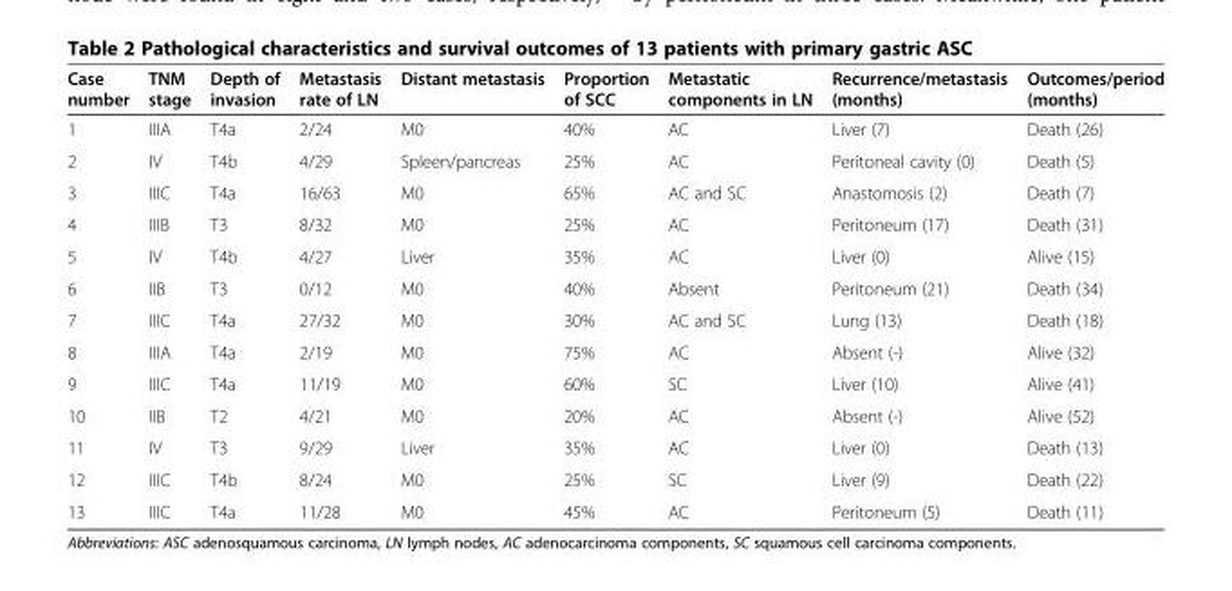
<table><thead><tr><td>Case number</td><td>TNM stage</td><td>Depth of invasion</td><td>Metastasis rate of LN</td><td>Distant metastasis</td><td>Proportion of SCC</td><td>Metastatic components in LN</td><td>Recurrence/metastasis (months)</td><td>Outcomes/period (months)</td></tr></thead><tbody><tr><td>1</td><td>IIIA</td><td>T4a</td><td>2/24</td><td>M0</td><td>40%</td><td>AC</td><td>Liver (7)</td><td>Death (26)</td></tr><tr><td>2</td><td>IV</td><td>T4b</td><td>4/29</td><td>Spleen/pancreas</td><td>25%</td><td>AC</td><td>Peritoneal cavity (0)</td><td>Death (5)</td></tr><tr><td>3</td><td>IIIC</td><td>T4a</td><td>16/63</td><td>M0</td><td>65%</td><td>AC and SC</td><td>Anastomosis (2)</td><td>Death (7)</td></tr><tr><td>4</td><td>IIIB</td><td>T3</td><td>8/32</td><td>M0</td><td>25%</td><td>AC</td><td>Peritoneum (17)</td><td>Death (31)</td></tr><tr><td>5</td><td>IV</td><td>T4b</td><td>4/27</td><td>Liver</td><td>35%</td><td>AC</td><td>Liver (0)</td><td>Alive (15)</td></tr><tr><td>6</td><td>IIB</td><td>T3</td><td>0/12</td><td>M0</td><td>40%</td><td>Absent</td><td>Peritoneum (21)</td><td>Death (34)</td></tr><tr><td>7</td><td>IIIC</td><td>T4a</td><td>27/32</td><td>M0</td><td>30%</td><td>AC and SC</td><td>Lung (13)</td><td>Death (18)</td></tr><tr><td>8</td><td>IIIA</td><td>T4a</td><td>2/19</td><td>M0</td><td>75%</td><td>AC</td><td>Absent (-)</td><td>Alive (32)</td></tr><tr><td>9</td><td>IIIC</td><td>T4a</td><td>11/19</td><td>M0</td><td>60%</td><td>SC</td><td>Liver (10)</td><td>Alive (41)</td></tr><tr><td>10</td><td>IIB</td><td>T2</td><td>4/21</td><td>M0</td><td>20%</td><td>AC</td><td>Absent (-)</td><td>Alive (52)</td></tr><tr><td>11</td><td>IV</td><td>T3</td><td>9/29</td><td>Liver</td><td>35%</td><td>AC</td><td>Liver (0)</td><td>Death (13)</td></tr><tr><td>12</td><td>IIIC</td><td>T4b</td><td>8/24</td><td>M0</td><td>25%</td><td>SC</td><td>Liver (9)</td><td>Death (22)</td></tr><tr><td>13</td><td>IIIC</td><td>T4a</td><td>11/28</td><td>M0</td><td>45%</td><td>AC</td><td>Peritoneum (5)</td><td>Death (11)</td></tr></tbody></table>